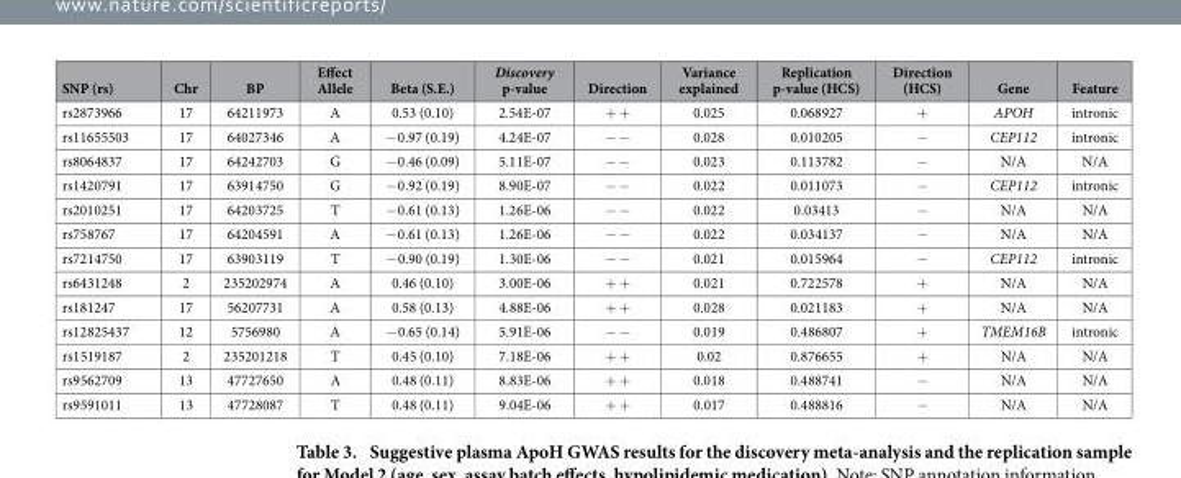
<table><thead><tr><td>SNP (rs)</td><td>Chr</td><td>BP</td><td>Effect Allele</td><td>Beta (S.E.)</td><td>Discovery p-value</td><td>Direction</td><td>Variance explained</td><td>Replication p-value (HCS)</td><td>Direction (HCS)</td><td>Gene</td><td>Feature</td></tr></thead><tbody><tr><td>rs2873966</td><td>17</td><td>64211973</td><td>A</td><td>0.53 (0.10)</td><td>2.54E-07</td><td>+ +</td><td>0.025</td><td>0.068927</td><td>+</td><td>APOH</td><td>intronic</td></tr><tr><td>rs11655503</td><td>17</td><td>64027346</td><td>A</td><td>− 0.97 (0.19)</td><td>4.24E-07</td><td>− −</td><td>0.028</td><td>0.010205</td><td>−</td><td>CEP112</td><td>intronic</td></tr><tr><td>rs8064837</td><td>17</td><td>64242703</td><td>G</td><td>− 0.46 (0.09)</td><td>5.11E-07</td><td>− −</td><td>0.023</td><td>0.113782</td><td>−</td><td>N/A</td><td>N/A</td></tr><tr><td>rs1420791</td><td>17</td><td>63914750</td><td>G</td><td>− 0.92 (0.19)</td><td>8.90E-07</td><td>− −</td><td>0.022</td><td>0.011073</td><td>−</td><td>CEP112</td><td>intronic</td></tr><tr><td>rs2010251</td><td>17</td><td>64203725</td><td>T</td><td>− 0.61 (0.13)</td><td>1.26E-06</td><td>− −</td><td>0.022</td><td>0.03413</td><td>−</td><td>N/A</td><td>N/A</td></tr><tr><td>rs758767</td><td>17</td><td>64204591</td><td>A</td><td>− 0.61 (0.13)</td><td>1.26E-06</td><td>− −</td><td>0.022</td><td>0.034137</td><td>−</td><td>N/A</td><td>N/A</td></tr><tr><td>rs7214750</td><td>17</td><td>63903119</td><td>T</td><td>− 0.90 (0.19)</td><td>1.30E-06</td><td>− −</td><td>0.021</td><td>0.015964</td><td>−</td><td>CEP112</td><td>intronic</td></tr><tr><td>rs6431248</td><td>2</td><td>235202974</td><td>A</td><td>0.46 (0.10)</td><td>3.00E-06</td><td>+ +</td><td>0.021</td><td>0.722578</td><td>+</td><td>N/A</td><td>N/A</td></tr><tr><td>rs181247</td><td>17</td><td>56207731</td><td>A</td><td>0.58 (0.13)</td><td>4.88E-06</td><td>+ +</td><td>0.028</td><td>0.021183</td><td>+</td><td>N/A</td><td>N/A</td></tr><tr><td>rs12825437</td><td>12</td><td>5756980</td><td>A</td><td>− 0.65 (0.14)</td><td>5.91E-06</td><td>− −</td><td>0.019</td><td>0.486807</td><td>+</td><td>TMEM16B</td><td>intronic</td></tr><tr><td>rs1519187</td><td>2</td><td>235201218</td><td>T</td><td>0.45 (0.10)</td><td>7.18E-06</td><td>+ +</td><td>0.02</td><td>0.876655</td><td>+</td><td>N/A</td><td>N/A</td></tr><tr><td>rs9562709</td><td>13</td><td>47727650</td><td>A</td><td>0.48 (0.11)</td><td>8.83E-06</td><td>+ +</td><td>0.018</td><td>0.488741</td><td>−</td><td>N/A</td><td>N/A</td></tr><tr><td>rs9591011</td><td>13</td><td>47728087</td><td>T</td><td>0.48 (0.11)</td><td>9.04E-06</td><td>+ +</td><td>0.017</td><td>0.488816</td><td>−</td><td>N/A</td><td>N/A</td></tr></tbody></table>